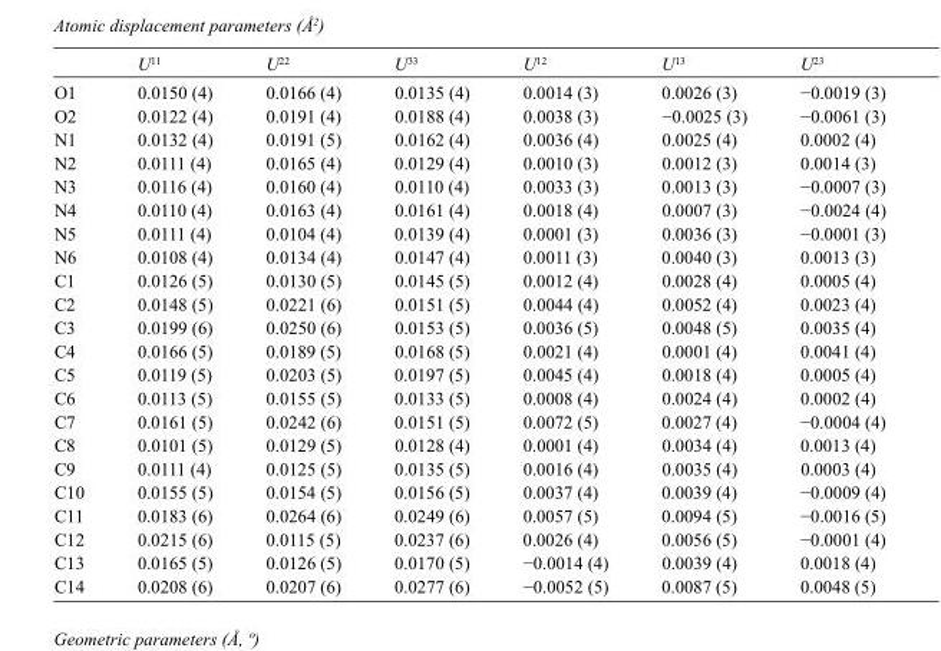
<table><thead><tr><td></td><td>U<sup>11</sup></td><td>U<sup>22</sup></td><td>U<sup>33</sup></td><td>U<sup>12</sup></td><td>U<sup>13</sup></td><td>U<sup>23</sup></td></tr></thead><tbody><tr><td>O1</td><td>0.0150 (4)</td><td>0.0166 (4)</td><td>0.0135 (4)</td><td>0.0014 (3)</td><td>0.0026 (3)</td><td>−0.0019 (3)</td></tr><tr><td>O2</td><td>0.0122 (4)</td><td>0.0191 (4)</td><td>0.0188 (4)</td><td>0.0038 (3)</td><td>−0.0025 (3)</td><td>−0.0061 (3)</td></tr><tr><td>N1</td><td>0.0132 (4)</td><td>0.0191 (5)</td><td>0.0162 (4)</td><td>0.0036 (4)</td><td>0.0025 (4)</td><td>0.0002 (4)</td></tr><tr><td>N2</td><td>0.0111 (4)</td><td>0.0165 (4)</td><td>0.0129 (4)</td><td>0.0010 (3)</td><td>0.0012 (3)</td><td>0.0014 (3)</td></tr><tr><td>N3</td><td>0.0116 (4)</td><td>0.0160 (4)</td><td>0.0110 (4)</td><td>0.0033 (3)</td><td>0.0013 (3)</td><td>−0.0007 (3)</td></tr><tr><td>N4</td><td>0.0110 (4)</td><td>0.0163 (4)</td><td>0.0161 (4)</td><td>0.0018 (4)</td><td>0.0007 (3)</td><td>−0.0024 (4)</td></tr><tr><td>N5</td><td>0.0111 (4)</td><td>0.0104 (4)</td><td>0.0139 (4)</td><td>0.0001 (3)</td><td>0.0036 (3)</td><td>−0.0001 (3)</td></tr><tr><td>N6</td><td>0.0108 (4)</td><td>0.0134 (4)</td><td>0.0147 (4)</td><td>0.0011 (3)</td><td>0.0040 (3)</td><td>0.0013 (3)</td></tr><tr><td>C1</td><td>0.0126 (5)</td><td>0.0130 (5)</td><td>0.0145 (5)</td><td>0.0012 (4)</td><td>0.0028 (4)</td><td>0.0005 (4)</td></tr><tr><td>C2</td><td>0.0148 (5)</td><td>0.0221 (6)</td><td>0.0151 (5)</td><td>0.0044 (4)</td><td>0.0052 (4)</td><td>0.0023 (4)</td></tr><tr><td>C3</td><td>0.0199 (6)</td><td>0.0250 (6)</td><td>0.0153 (5)</td><td>0.0036 (5)</td><td>0.0048 (5)</td><td>0.0035 (4)</td></tr><tr><td>C4</td><td>0.0166 (5)</td><td>0.0189 (5)</td><td>0.0168 (5)</td><td>0.0021 (4)</td><td>0.0001 (4)</td><td>0.0041 (4)</td></tr><tr><td>C5</td><td>0.0119 (5)</td><td>0.0203 (5)</td><td>0.0197 (5)</td><td>0.0045 (4)</td><td>0.0018 (4)</td><td>0.0005 (4)</td></tr><tr><td>C6</td><td>0.0113 (5)</td><td>0.0155 (5)</td><td>0.0133 (5)</td><td>0.0008 (4)</td><td>0.0024 (4)</td><td>0.0002 (4)</td></tr><tr><td>C7</td><td>0.0161 (5)</td><td>0.0242 (6)</td><td>0.0151 (5)</td><td>0.0072 (5)</td><td>0.0027 (4)</td><td>−0.0004 (4)</td></tr><tr><td>C8</td><td>0.0101 (5)</td><td>0.0129 (5)</td><td>0.0128 (4)</td><td>0.0001 (4)</td><td>0.0034 (4)</td><td>0.0013 (4)</td></tr><tr><td>C9</td><td>0.0111 (4)</td><td>0.0125 (5)</td><td>0.0135 (5)</td><td>0.0016 (4)</td><td>0.0035 (4)</td><td>0.0003 (4)</td></tr><tr><td>C10</td><td>0.0155 (5)</td><td>0.0154 (5)</td><td>0.0156 (5)</td><td>0.0037 (4)</td><td>0.0039 (4)</td><td>−0.0009 (4)</td></tr><tr><td>C11</td><td>0.0183 (6)</td><td>0.0264 (6)</td><td>0.0249 (6)</td><td>0.0057 (5)</td><td>0.0094 (5)</td><td>−0.0016 (5)</td></tr><tr><td>C12</td><td>0.0215 (6)</td><td>0.0115 (5)</td><td>0.0237 (6)</td><td>0.0026 (4)</td><td>0.0056 (5)</td><td>−0.0001 (4)</td></tr><tr><td>C13</td><td>0.0165 (5)</td><td>0.0126 (5)</td><td>0.0170 (5)</td><td>−0.0014 (4)</td><td>0.0039 (4)</td><td>0.0018 (4)</td></tr><tr><td>C14</td><td>0.0208 (6)</td><td>0.0207 (6)</td><td>0.0277 (6)</td><td>−0.0052 (5)</td><td>0.0087 (5)</td><td>0.0048 (5)</td></tr></tbody></table>